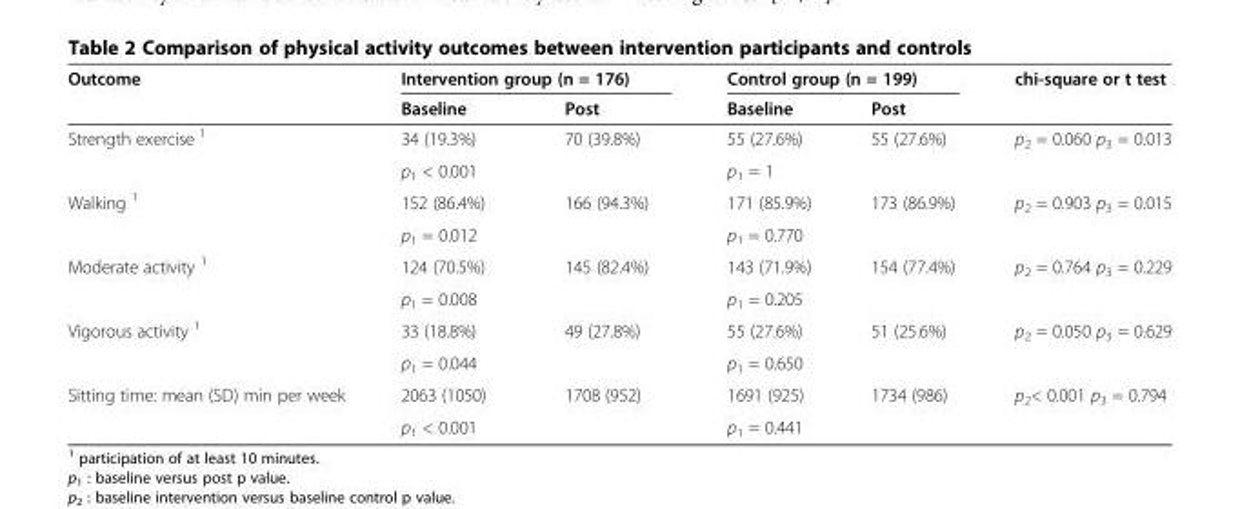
<table><thead><tr><td rowspan="2">Outcome</td><td colspan="2">Intervention group (n = 176)</td><td colspan="2">Control group (n = 199)</td><td rowspan="2">chi-square or t test</td></tr><tr><td>Baseline</td><td>Post</td><td>Baseline</td><td>Post</td></tr></thead><tbody><tr><td rowspan="2">Strength exercise <sup>1</sup></td><td>34 (19.3%)</td><td>70 (39.8%)</td><td>55 (27.6%)</td><td>55 (27.6%)</td><td rowspan="2">p<sub>2</sub> = 0.060 p<sub>3</sub> = 0.013</td></tr><tr><td colspan="2">p<sub>1</sub> &lt; 0.001</td><td colspan="2">p<sub>1</sub> = 1</td></tr><tr><td rowspan="2">Walking <sup>1</sup></td><td>152 (86.4%)</td><td>166 (94.3%)</td><td>171 (85.9%)</td><td>173 (86.9%)</td><td rowspan="2">p<sub>2</sub> = 0.903 p<sub>3</sub> = 0.015</td></tr><tr><td colspan="2">p<sub>1</sub> = 0.012</td><td colspan="2">p<sub>1</sub> = 0.770</td></tr><tr><td rowspan="2">Moderate activity <sup>1</sup></td><td>124 (70.5%)</td><td>145 (82.4%)</td><td>143 (71.9%)</td><td>154 (77.4%)</td><td rowspan="2">p<sub>2</sub> = 0.764 p<sub>3</sub> = 0.229</td></tr><tr><td colspan="2">p<sub>1</sub> = 0.008</td><td colspan="2">p<sub>1</sub> = 0.205</td></tr><tr><td rowspan="2">Vigorous activity <sup>1</sup></td><td>33 (18.8%)</td><td>49 (27.8%)</td><td>55 (27.6%)</td><td>51 (25.6%)</td><td rowspan="2">p<sub>2</sub> = 0.050 p<sub>3</sub> = 0.629</td></tr><tr><td colspan="2">p<sub>1</sub> = 0.044</td><td colspan="2">p<sub>1</sub> = 0.650</td></tr><tr><td rowspan="2">Sitting time: mean (SD) min per week</td><td>2063 (1050)</td><td>1708 (952)</td><td>1691 (925)</td><td>1734 (986)</td><td>p<sub>2</sub>&lt; 0.001 p<sub>3</sub> = 0.794</td></tr><tr><td colspan="2">p<sub>1</sub> &lt; 0.001</td><td colspan="2">p<sub>1</sub> = 0.441</td><td></td></tr></tbody></table>